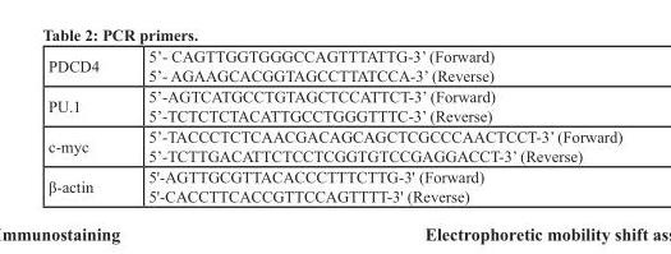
<table><tbody><tr><td>PDCD4</td><td>5’- CAGTTGGTGGGCCAGTTTATTG-3’ (Forward) 5’- AGAAGCACGGTAGCCTTATCCA-3’ (Reverse)</td></tr><tr><td>PU.1</td><td>5’-AGTCATGCCTGTAGCTCCATTCT-3’ (Forward) 5’-TCTCTCTACATTGCCTGGGTTTC-3’ (Reverse)</td></tr><tr><td>c-myc</td><td>5’-TACCCTCTCAACGACAGCAGCTCGCCCAACTCCT-3’ (Forward) 5’-TCTTGACATTCTCCTCGGTGTCCGAGGACCT-3’ (Reverse)</td></tr><tr><td>β-actin</td><td>5&#x27;-AGTTGCGTTACACCCTTTCTTG-3&#x27; (Forward) 5&#x27;-CACCTTCACCGTTCCAGTTTT-3&#x27; (Reverse)</td></tr></tbody></table>